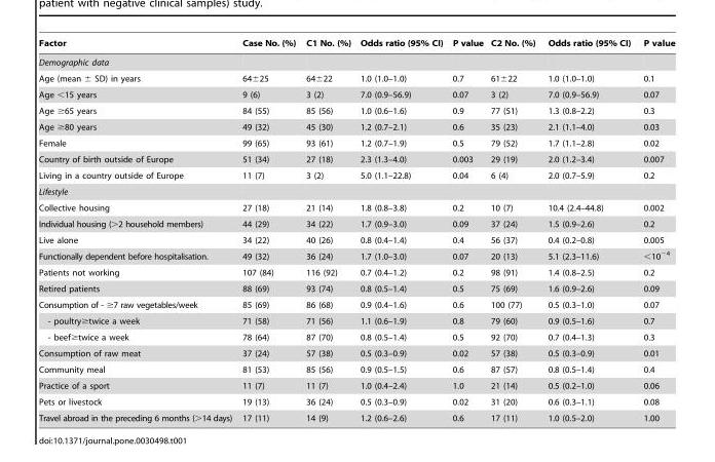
<table><thead><tr><td>Factor</td><td>Case No. (%)</td><td>C1 No. (%)</td><td>Odds ratio (95% CI)</td><td>P value</td><td>C2 No. (%)</td><td>Odds ratio (95% CI)</td><td>P value</td></tr></thead><tbody><tr><td colspan="8">Demographic data</td></tr><tr><td>Age (mean ± SD) in years</td><td>64±25</td><td>64±22</td><td>1.0 (1.0–1.0)</td><td>0.7</td><td>61±22</td><td>1.0 (1.0–1.0)</td><td>0.1</td></tr><tr><td>Age &lt;15 years</td><td>9 (6)</td><td>3 (2)</td><td>7.0 (0.9–56.9)</td><td>0.07</td><td>3 (2)</td><td>7.0 (0.9–56.9)</td><td>0.07</td></tr><tr><td>Age ≥65 years</td><td>84 (55)</td><td>85 (56)</td><td>1.0 (0.6–1.6)</td><td>0.9</td><td>77 (51)</td><td>1.3 (0.8–2.2)</td><td>0.3</td></tr><tr><td>Age ≥80 years</td><td>49 (32)</td><td>45 (30)</td><td>1.2 (0.7–2.1)</td><td>0.6</td><td>35 (23)</td><td>2.1 (1.1–4.0)</td><td>0.03</td></tr><tr><td>Female</td><td>99 (65)</td><td>93 (61)</td><td>1.2 (0.7–1.9)</td><td>0.5</td><td>79 (52)</td><td>1.7 (1.1–2.8)</td><td>0.02</td></tr><tr><td>Country of birth outside of Europe</td><td>51 (34)</td><td>27 (18)</td><td>2.3 (1.3–4.0)</td><td>0.003</td><td>29 (19)</td><td>2.0 (1.2–3.4)</td><td>0.007</td></tr><tr><td>Living in a country outside of Europe</td><td>11 (7)</td><td>3 (2)</td><td>5.0 (1.1–22.8)</td><td>0.04</td><td>6 (4)</td><td>2.0 (0.7–5.9)</td><td>0.2</td></tr><tr><td colspan="8">Lifestyle</td></tr><tr><td>Collective housing</td><td>27 (18)</td><td>21 (14)</td><td>1.8 (0.8–3.8)</td><td>0.2</td><td>10 (7)</td><td>10.4 (2.4–44.8)</td><td>0.002</td></tr><tr><td>Individual housing (&gt;2 household members)</td><td>44 (29)</td><td>34 (22)</td><td>1.7 (0.9–3.0)</td><td>0.09</td><td>37 (24)</td><td>1.5 (0.9–2.6)</td><td>0.2</td></tr><tr><td>Live alone</td><td>34 (22)</td><td>40 (26)</td><td>0.8 (0.4–1.4)</td><td>0.4</td><td>56 (37)</td><td>0.4 (0.2–0.8)</td><td>0.005</td></tr><tr><td>Functionally dependent before hospitalisation.</td><td>49 (32)</td><td>36 (24)</td><td>1.7 (1.0–3.0)</td><td>0.07</td><td>20 (13)</td><td>5.1 (2.3–11.6)</td><td>&lt;10<sup>−4</sup></td></tr><tr><td>Patients not working</td><td>107 (84)</td><td>116 (92)</td><td>0.7 (0.4–1.2)</td><td>0.2</td><td>98 (91)</td><td>1.4 (0.8–2.5)</td><td>0.2</td></tr><tr><td>Retired patients</td><td>88 (69)</td><td>93 (74)</td><td>0.8 (0.5–1.4)</td><td>0.5</td><td>75 (69)</td><td>1.6 (0.9–2.6)</td><td>0.09</td></tr><tr><td>Consumption of - ≥7 raw vegetables/week</td><td>85 (69)</td><td>86 (68)</td><td>0.9 (0.4–1.6)</td><td>0.6</td><td>100 (77)</td><td>0.5 (0.3–1.0)</td><td>0.07</td></tr><tr><td>- poultry≥twice a week</td><td>71 (58)</td><td>71 (56)</td><td>1.1 (0.6–1.9)</td><td>0.8</td><td>79 (60)</td><td>0.9 (0.5–1.6)</td><td>0.7</td></tr><tr><td>- beef≥twice a week</td><td>78 (64)</td><td>87 (70)</td><td>0.8 (0.5–1.4)</td><td>0.5</td><td>92 (70)</td><td>0.7 (0.4–1.3)</td><td>0.3</td></tr><tr><td>Consumption of raw meat</td><td>37 (24)</td><td>57 (38)</td><td>0.5 (0.3–0.9)</td><td>0.02</td><td>57 (38)</td><td>0.5 (0.3–0.9)</td><td>0.01</td></tr><tr><td>Community meal</td><td>81 (53)</td><td>85 (56)</td><td>0.9 (0.5–1.5)</td><td>0.6</td><td>87 (57)</td><td>0.8 (0.5–1.4)</td><td>0.4</td></tr><tr><td>Practice of a sport</td><td>11 (7)</td><td>11 (7)</td><td>1.0 (0.4–2.4)</td><td>1.0</td><td>21 (14)</td><td>0.5 (0.2–1.0)</td><td>0.06</td></tr><tr><td>Pets or livestock</td><td>19 (13)</td><td>36 (24)</td><td>0.5 (0.3–0.9)</td><td>0.02</td><td>31 (20)</td><td>0.6 (0.3–1.1)</td><td>0.08</td></tr><tr><td>Travel abroad in the preceding 6 months (&gt;14 days)</td><td>17 (11)</td><td>14 (9)</td><td>1.2 (0.6–2.6)</td><td>0.6</td><td>17 (11)</td><td>1.0 (0.5–2.0)</td><td>1.00</td></tr></tbody></table>